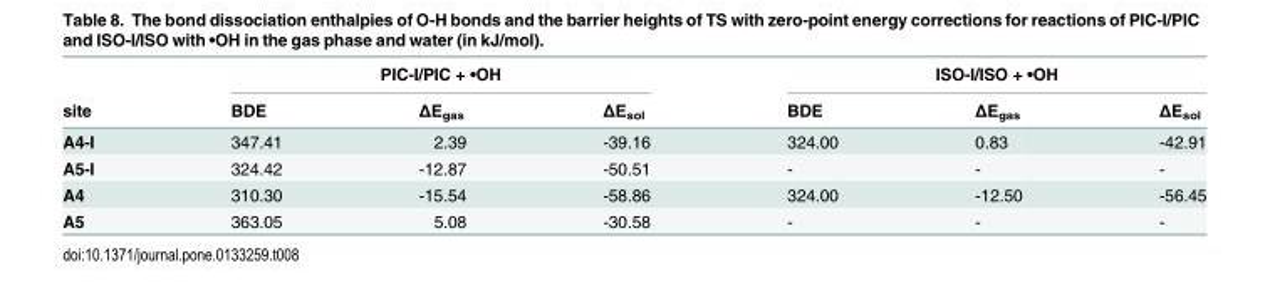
<table><thead><tr><td rowspan="2">site</td><td colspan="3">PIC-I/PIC + •OH</td><td colspan="3">ISO-I/ISO + •OH</td></tr><tr><td>BDE</td><td>ΔE<sub>gas</sub></td><td>ΔE<sub>sol</sub></td><td>BDE</td><td>ΔE<sub>gas</sub></td><td>ΔE<sub>sol</sub></td></tr></thead><tbody><tr><td>A4-I</td><td>347.41</td><td>2.39</td><td>-39.16</td><td>324.00</td><td>0.83</td><td>-42.91</td></tr><tr><td>A5-I</td><td>324.42</td><td>-12.87</td><td>-50.51</td><td>-</td><td>-</td><td>-</td></tr><tr><td>A4</td><td>310.30</td><td>-15.54</td><td>-58.86</td><td>324.00</td><td>-12.50</td><td>-56.45</td></tr><tr><td>A5</td><td>363.05</td><td>5.08</td><td>-30.58</td><td>-</td><td>-</td><td>-</td></tr></tbody></table>